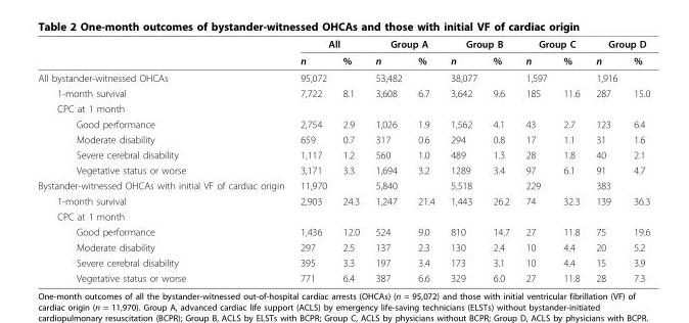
<table><thead><tr><td rowspan="2"></td><td colspan="2">All</td><td colspan="2">Group A</td><td colspan="2">Group B</td><td colspan="2">Group C</td><td colspan="2">Group D</td></tr><tr><td>n</td><td>%</td><td>n</td><td>%</td><td>n</td><td>%</td><td>n</td><td>%</td><td>n</td><td>%</td></tr></thead><tbody><tr><td>All bystander-witnessed OHCAs</td><td>95,072</td><td></td><td>53,482</td><td></td><td>38,077</td><td></td><td>1,597</td><td></td><td>1,916</td><td></td></tr><tr><td>1-month survival</td><td>7,722</td><td>8.1</td><td>3,608</td><td>6.7</td><td>3,642</td><td>9.6</td><td>185</td><td>11.6</td><td>287</td><td>15.0</td></tr><tr><td colspan="11">CPC at 1 month</td></tr><tr><td>Good performance</td><td>2,754</td><td>2.9</td><td>1,026</td><td>1.9</td><td>1,562</td><td>4.1</td><td>43</td><td>2.7</td><td>123</td><td>6.4</td></tr><tr><td>Moderate disability</td><td>659</td><td>0.7</td><td>317</td><td>0.6</td><td>294</td><td>0.8</td><td>17</td><td>1.1</td><td>31</td><td>1.6</td></tr><tr><td>Severe cerebral disability</td><td>1,117</td><td>1.2</td><td>560</td><td>1.0</td><td>489</td><td>1.3</td><td>28</td><td>1.8</td><td>40</td><td>2.1</td></tr><tr><td>Vegetative status or worse</td><td>3,171</td><td>3.3</td><td>1,694</td><td>3.2</td><td>1289</td><td>3.4</td><td>97</td><td>6.1</td><td>91</td><td>4.7</td></tr><tr><td>Bystander-witnessed OHCAs with initial VF of cardiac origin</td><td>11,970</td><td></td><td>5,840</td><td></td><td>5,518</td><td></td><td>229</td><td></td><td>383</td><td></td></tr><tr><td>1-month survival</td><td>2,903</td><td>24.3</td><td>1,247</td><td>21.4</td><td>1,443</td><td>26.2</td><td>74</td><td>32.3</td><td>139</td><td>36.3</td></tr><tr><td colspan="11">CPC at 1 month</td></tr><tr><td>Good performance</td><td>1,436</td><td>12.0</td><td>524</td><td>9.0</td><td>810</td><td>14.7</td><td>27</td><td>11.8</td><td>75</td><td>19.6</td></tr><tr><td>Moderate disability</td><td>297</td><td>2.5</td><td>137</td><td>2.3</td><td>130</td><td>2.4</td><td>10</td><td>4.4</td><td>20</td><td>5.2</td></tr><tr><td>Severe cerebral disability</td><td>395</td><td>3.3</td><td>197</td><td>3.4</td><td>173</td><td>3.1</td><td>10</td><td>4.4</td><td>15</td><td>3.9</td></tr><tr><td>Vegetative status or worse</td><td>771</td><td>6.4</td><td>387</td><td>6.6</td><td>329</td><td>6.0</td><td>27</td><td>11.8</td><td>28</td><td>7.3</td></tr></tbody></table>